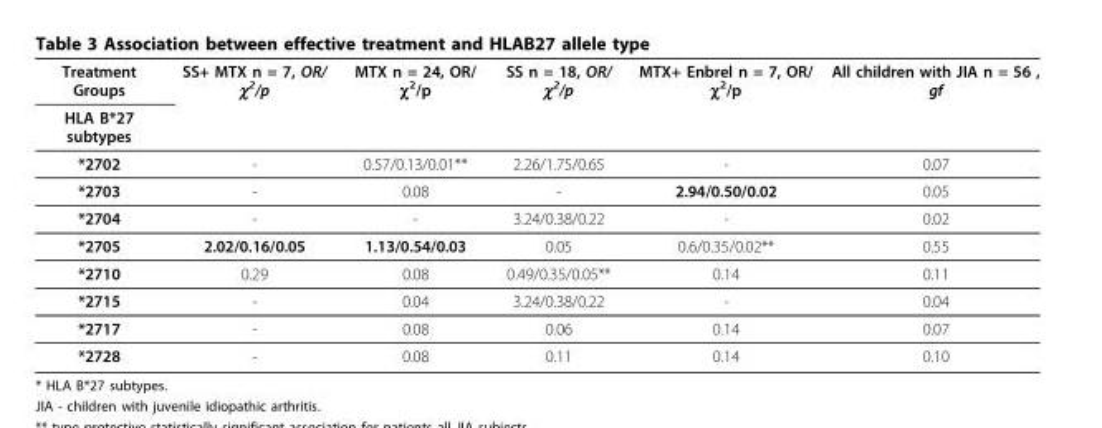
<table><thead><tr><td rowspan="2">Treatment Groups HLA B*27 subtypes</td><td rowspan="2">SS+ MTX n = 7, OR/ χ<sup>2</sup>/p</td><td rowspan="2">MTX n = 24, OR/ χ<sup>2</sup>/p</td><td rowspan="2">SS n = 18, OR/ χ<sup>2</sup>/p</td><td rowspan="2">MTX+ Enbrel n = 7, OR/ χ<sup>2</sup>/p</td><td rowspan="2">All children with JIA n = 56 , gf</td></tr><tr></tr></thead><tbody><tr><td>*2702</td><td>-</td><td>0.57/0.13/0.01**</td><td>2.26/1.75/0.65</td><td>-</td><td>0.07</td></tr><tr><td>*2703</td><td>-</td><td>0.08</td><td>-</td><td>2.94/0.50/0.02</td><td>0.05</td></tr><tr><td>*2704</td><td>-</td><td>-</td><td>3.24/0.38/0.22</td><td>-</td><td>0.02</td></tr><tr><td>*2705</td><td>2.02/0.16/0.05</td><td>1.13/0.54/0.03</td><td>0.05</td><td>0.6/0.35/0.02**</td><td>0.55</td></tr><tr><td>*2710</td><td>0.29</td><td>0.08</td><td>0.49/0.35/0.05**</td><td>0.14</td><td>0.11</td></tr><tr><td>*2715</td><td>-</td><td>0.04</td><td>3.24/0.38/0.22</td><td>-</td><td>0.04</td></tr><tr><td>*2717</td><td>-</td><td>0.08</td><td>0.06</td><td>0.14</td><td>0.07</td></tr><tr><td>*2728</td><td>-</td><td>0.08</td><td>0.11</td><td>0.14</td><td>0.10</td></tr></tbody></table>